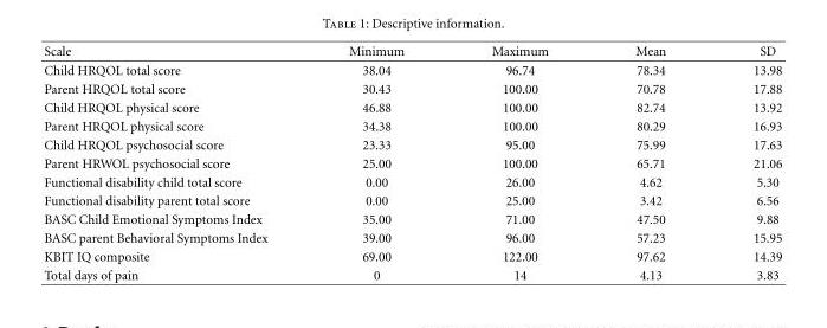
<table><thead><tr><td>Scale</td><td>Minimum</td><td>Maximum</td><td>Mean</td><td>SD</td></tr></thead><tbody><tr><td>Child HRQOL total score</td><td>38.04</td><td>96.74</td><td>78.34</td><td>13.98</td></tr><tr><td>Parent HRQOL total score</td><td>30.43</td><td>100.00</td><td>70.78</td><td>17.88</td></tr><tr><td>Child HRQOL physical score</td><td>46.88</td><td>100.00</td><td>82.74</td><td>13.92</td></tr><tr><td>Parent HRQOL physical score</td><td>34.38</td><td>100.00</td><td>80.29</td><td>16.93</td></tr><tr><td>Child HRQOL psychosocial score</td><td>23.33</td><td>95.00</td><td>75.99</td><td>17.63</td></tr><tr><td>Parent HRWOL psychosocial score</td><td>25.00</td><td>100.00</td><td>65.71</td><td>21.06</td></tr><tr><td>Functional disability child total score</td><td>0.00</td><td>26.00</td><td>4.62</td><td>5.30</td></tr><tr><td>Functional disability parent total score</td><td>0.00</td><td>25.00</td><td>3.42</td><td>6.56</td></tr><tr><td>BASC Child Emotional Symptoms Index</td><td>35.00</td><td>71.00</td><td>47.50</td><td>9.88</td></tr><tr><td>BASC parent Behavioral Symptoms Index</td><td>39.00</td><td>96.00</td><td>57.23</td><td>15.95</td></tr><tr><td>KBIT IQ composite</td><td>69.00</td><td>122.00</td><td>97.62</td><td>14.39</td></tr><tr><td>Total days of pain</td><td>0</td><td>14</td><td>4.13</td><td>3.83</td></tr></tbody></table>